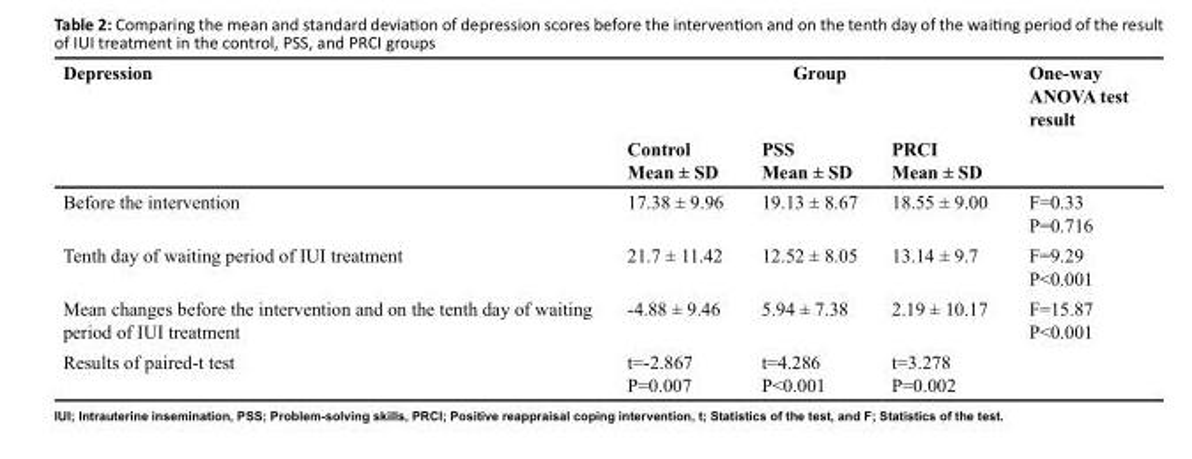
<table><thead><tr><td rowspan="2">Depression</td><td colspan="3">Group</td><td rowspan="2">One-way ANOVA test result</td></tr><tr><td>Control Mean ± SD</td><td>PSS Mean ± SD</td><td>PRCI Mean ± SD</td></tr></thead><tbody><tr><td>Before the intervention</td><td>17.38 ± 9.96</td><td>19.13 ± 8.67</td><td>18.55 ± 9.00</td><td>F=0.33 P=0.716</td></tr><tr><td>Tenth day of waiting period of IUI treatment</td><td>21.7 ± 11.42</td><td>12.52 ± 8.05</td><td>13.14 ± 9.7</td><td>F=9.29 P&lt;0.001</td></tr><tr><td>Mean changes before the intervention and on the tenth day of waiting period of IUI treatment</td><td>-4.88 ± 9.46</td><td>5.94 ± 7.38</td><td>2.19 ± 10.17</td><td>F=15.87 P&lt;0.001</td></tr><tr><td>Results of paired-t test</td><td>t=-2.867 P=0.007</td><td>t=4.286 P&lt;0.001</td><td>t=3.278 P=0.002</td><td></td></tr></tbody></table>